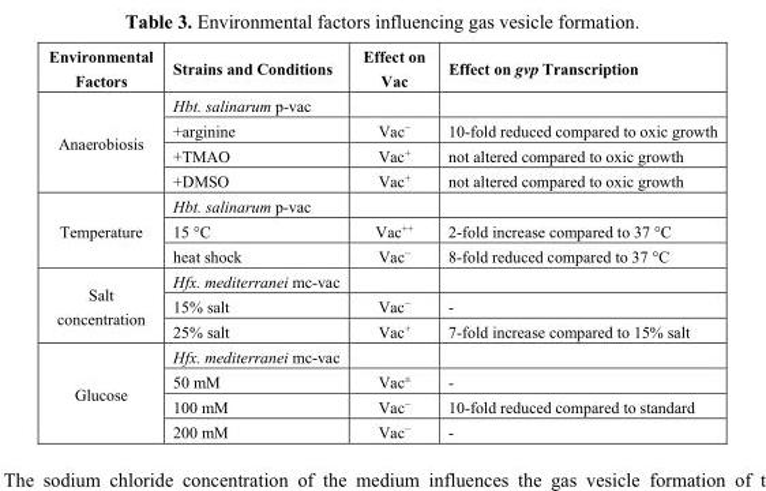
<table><thead><tr><td>Environmental Factors</td><td>Strains and Conditions</td><td>Effect on Vac</td><td>Effect on gvp Transcription</td></tr></thead><tbody><tr><td rowspan="4">Anaerobiosis</td><td>Hbt. salinarum p-vac</td><td></td><td></td></tr><tr><td>+arginine</td><td>Vac<sup>−</sup></td><td>10-fold reduced compared to oxic growth</td></tr><tr><td>+TMAO</td><td>Vac<sup>+</sup></td><td>not altered compared to oxic growth</td></tr><tr><td>+DMSO</td><td>Vac<sup>+</sup></td><td>not altered compared to oxic growth</td></tr><tr><td rowspan="3">Temperature</td><td>Hbt. salinarum p-vac</td><td></td><td></td></tr><tr><td>15 °C</td><td>Vac<sup>++</sup></td><td>2-fold increase compared to 37 °C</td></tr><tr><td>heat shock</td><td>Vac<sup>−</sup></td><td>8-fold reduced compared to 37 °C</td></tr><tr><td rowspan="3">Salt concentration</td><td>Hfx. mediterranei mc-vac</td><td></td><td></td></tr><tr><td>15% salt</td><td>Vac<sup>−</sup></td><td>-</td></tr><tr><td>25% salt</td><td>Vac<sup>+</sup></td><td>7-fold increase compared to 15% salt</td></tr><tr><td rowspan="4">Glucose</td><td>Hfx. mediterranei mc-vac</td><td></td><td></td></tr><tr><td>50 mM</td><td>Vac<sup>±</sup></td><td>-</td></tr><tr><td>100 mM</td><td>Vac<sup>−</sup></td><td>10-fold reduced compared to standard</td></tr><tr><td>200 mM</td><td>Vac<sup>−</sup></td><td>-</td></tr></tbody></table>